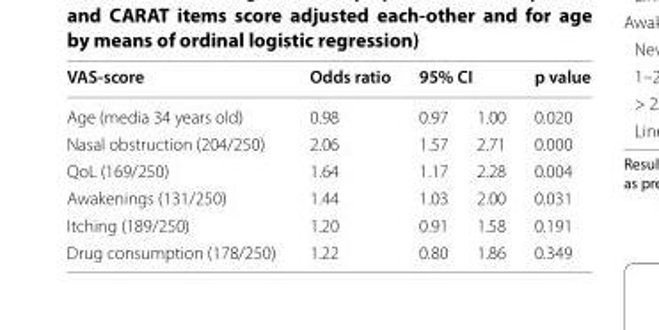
<table><thead><tr><td rowspan="2">VAS-score Age (media 34 years old)</td><td rowspan="2">Odds ratio 0.98</td><td colspan="2">95% CI</td><td rowspan="2">p value 0.020</td></tr><tr><td>0.97</td><td>1.00</td></tr></thead><tbody><tr><td>Nasal obstruction (204/250)</td><td>2.06</td><td>1.57</td><td>2.71</td><td>0.000</td></tr><tr><td>QoL (169/250)</td><td>1.64</td><td>1.17</td><td>2.28</td><td>0.004</td></tr><tr><td>Awakenings (131/250)</td><td>1.44</td><td>1.03</td><td>2.00</td><td>0.031</td></tr><tr><td>Itching (189/250)</td><td>1.20</td><td>0.91</td><td>1.58</td><td>0.191</td></tr><tr><td>Drug consumption (178/250)</td><td>1.22</td><td>0.80</td><td>1.86</td><td>0.349</td></tr></tbody></table>